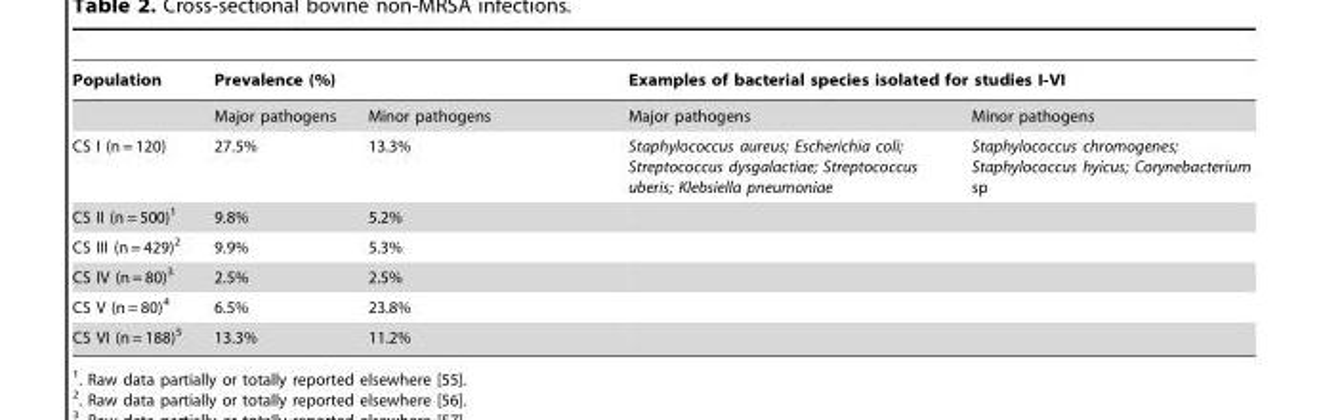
<table><thead><tr><td rowspan="2">Population</td><td rowspan="2">Prevalence (%) Major pathogens</td><td rowspan="2">Minor pathogens</td><td colspan="2">Examples of bacterial species isolated for studies I-VI</td></tr><tr><td>Major pathogens</td><td>Minor pathogens</td></tr></thead><tbody><tr><td>CS I (n = 120)</td><td>27.5%</td><td>13.3%</td><td>Staphylococcus aureus; Escherichia coli; Streptococcus dysgalactiae; Streptococcus uberis; Klebsiella pneumoniae</td><td>Staphylococcus chromogenes; Staphylococcus hyicus; Corynebacterium sp</td></tr><tr><td>CS II (n = 500)<sup>1</sup></td><td>9.8%</td><td>5.2%</td><td></td><td></td></tr><tr><td>CS III (n = 429)<sup>2</sup></td><td>9.9%</td><td>5.3%</td><td></td><td></td></tr><tr><td>CS IV (n = 80)<sup>3</sup></td><td>2.5%</td><td>2.5%</td><td></td><td></td></tr><tr><td>CS V (n = 80)<sup>4</sup></td><td>6.5%</td><td>23.8%</td><td></td><td></td></tr><tr><td>CS VI (n = 188)<sup>5</sup></td><td>13.3%</td><td>11.2%</td><td></td><td></td></tr></tbody></table>